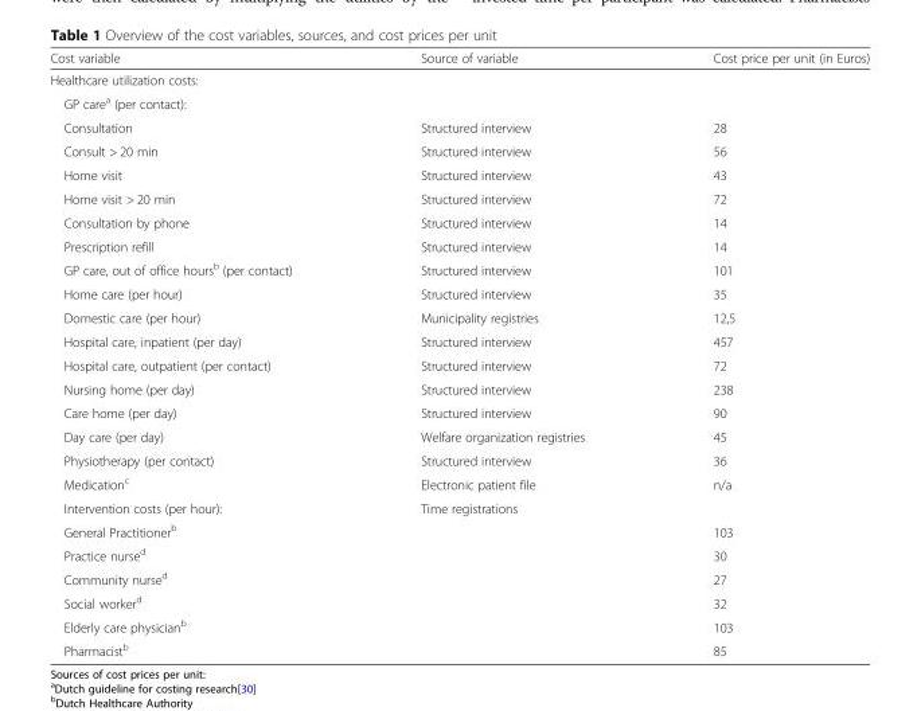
<table><thead><tr><td>Cost variable</td><td>Source of variable</td><td>Cost price per unit (in Euros)</td></tr></thead><tbody><tr><td colspan="3">Healthcare utilization costs:</td></tr><tr><td colspan="3">GP care<sup>a</sup> (per contact):</td></tr><tr><td>Consultation</td><td>Structured interview</td><td>28</td></tr><tr><td>Consult &gt; 20 min</td><td>Structured interview</td><td>56</td></tr><tr><td>Home visit</td><td>Structured interview</td><td>43</td></tr><tr><td>Home visit &gt; 20 min</td><td>Structured interview</td><td>72</td></tr><tr><td>Consultation by phone</td><td>Structured interview</td><td>14</td></tr><tr><td>Prescription refill</td><td>Structured interview</td><td>14</td></tr><tr><td>GP care, out of office hours<sup>b</sup> (per contact)</td><td>Structured interview</td><td>101</td></tr><tr><td>Home care (per hour)</td><td>Structured interview</td><td>35</td></tr><tr><td>Domestic care (per hour)</td><td>Municipality registries</td><td>12,5</td></tr><tr><td>Hospital care, inpatient (per day)</td><td>Structured interview</td><td>457</td></tr><tr><td>Hospital care, outpatient (per contact)</td><td>Structured interview</td><td>72</td></tr><tr><td>Nursing home (per day)</td><td>Structured interview</td><td>238</td></tr><tr><td>Care home (per day)</td><td>Structured interview</td><td>90</td></tr><tr><td>Day care (per day)</td><td>Welfare organization registries</td><td>45</td></tr><tr><td>Physiotherapy (per contact)</td><td>Structured interview</td><td>36</td></tr><tr><td>Medication<sup>c</sup></td><td>Electronic patient file</td><td>n/a</td></tr><tr><td>Intervention costs (per hour):</td><td>Time registrations</td><td></td></tr><tr><td>General Practitioner<sup>b</sup></td><td></td><td>103</td></tr><tr><td>Practice nurse<sup>d</sup></td><td></td><td>30</td></tr><tr><td>Community nurse<sup>d</sup></td><td></td><td>27</td></tr><tr><td>Social worker<sup>d</sup></td><td></td><td>32</td></tr><tr><td>Elderly care physician<sup>b</sup></td><td></td><td>103</td></tr><tr><td>Pharmacist<sup>b</sup></td><td></td><td>85</td></tr></tbody></table>